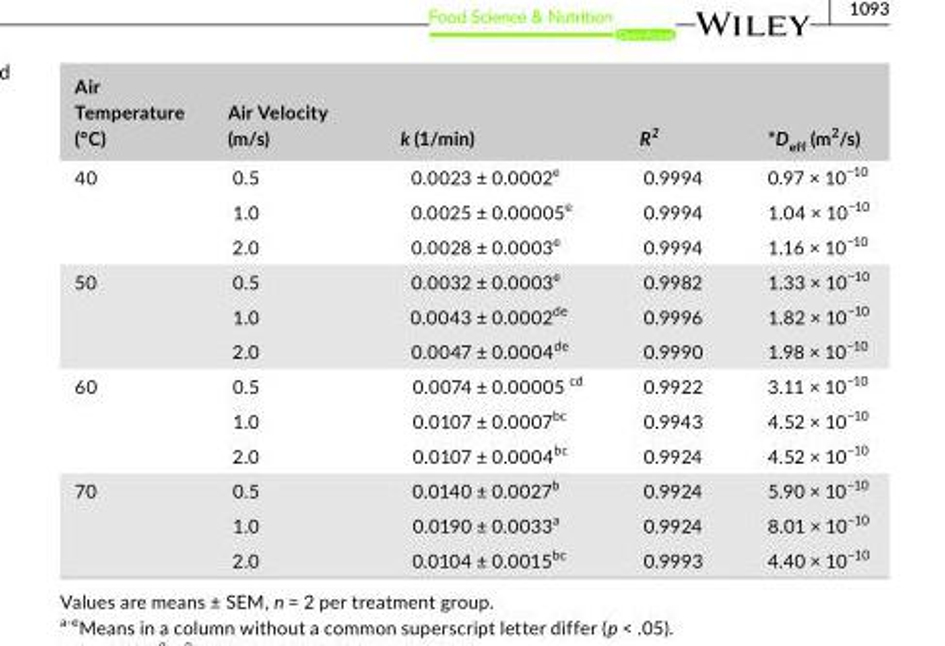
<table><thead><tr><td>Air Temperature (°C)</td><td>AirVelocity (m/s)</td><td>k(1/min)</td><td>R<sup>2</sup></td><td>*Deff(m2/s)</td></tr></thead><tbody><tr><td rowspan="3">40</td><td>0.5</td><td>0.0023 ± 0.0002<sup>e</sup></td><td>0.9994</td><td>0.97 × 10<sup>−10</sup></td></tr><tr><td>1.0</td><td>0.0025 ± 0.00005<sup>e</sup></td><td>0.9994</td><td>1.04 × 10<sup>−10</sup></td></tr><tr><td>2.0</td><td>0.0028 ± 0.0003<sup>e</sup></td><td>0.9994</td><td>1.16 × 10<sup>−10</sup></td></tr><tr><td rowspan="3">50</td><td>0.5</td><td>0.0032 ± 0.0003<sup>e</sup></td><td>0.9982</td><td>1.33 × 10<sup>−10</sup></td></tr><tr><td>1.0</td><td>0.0043 ± 0.0002<sup>de</sup></td><td>0.9996</td><td>1.82 × 10<sup>−10</sup></td></tr><tr><td>2.0</td><td>0.0047 ± 0.0004<sup>de</sup></td><td>0.9990</td><td>1.98 × 10<sup>−10</sup></td></tr><tr><td rowspan="3">60</td><td>0.5</td><td>0.0074 ± 0.00005 <sup>cd</sup></td><td>0.9922</td><td>3.11 × 10<sup>−10</sup></td></tr><tr><td>1.0</td><td>0.0107 ± 0.0007<sup>bc</sup></td><td>0.9943</td><td>4.52 × 10<sup>−10</sup></td></tr><tr><td>2.0</td><td>0.0107 ± 0.0004<sup>bc</sup></td><td>0.9924</td><td>4.52 × 10<sup>−10</sup></td></tr><tr><td rowspan="3">70</td><td>0.5</td><td>0.0140 ± 0.0027<sup>b</sup></td><td>0.9924</td><td>5.90 × 10<sup>−10</sup></td></tr><tr><td>1.0</td><td>0.0190 ± 0.0033<sup>a</sup></td><td>0.9924</td><td>8.01 × 10<sup>−10</sup></td></tr><tr><td>2.0</td><td>0.0104 ± 0.0015<sup>bc</sup></td><td>0.9993</td><td>4.40 × 10<sup>−10</sup></td></tr></tbody></table>